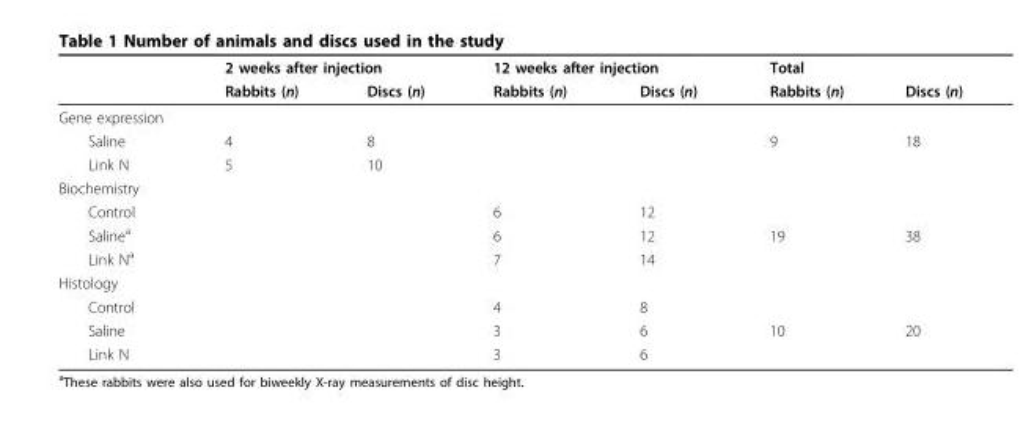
<table><thead><tr><td rowspan="2"></td><td colspan="2">2 weeks after injection</td><td colspan="2">12 weeks after injection</td><td colspan="2">Total</td></tr><tr><td>Rabbits (n)</td><td>Discs (n)</td><td>Rabbits (n)</td><td>Discs (n)</td><td>Rabbits (n)</td><td>Discs (n)</td></tr></thead><tbody><tr><td colspan="7">Gene expression</td></tr><tr><td>Saline</td><td>4</td><td>8</td><td></td><td></td><td>9</td><td>18</td></tr><tr><td>Link N</td><td>5</td><td>10</td><td></td><td></td><td></td><td></td></tr><tr><td colspan="7">Biochemistry</td></tr><tr><td>Control</td><td></td><td></td><td>6</td><td>12</td><td></td><td></td></tr><tr><td>Saline<sup>a</sup></td><td></td><td></td><td>6</td><td>12</td><td>19</td><td>38</td></tr><tr><td>Link N<sup>a</sup></td><td></td><td></td><td>7</td><td>14</td><td></td><td></td></tr><tr><td colspan="7">Histology</td></tr><tr><td>Control</td><td></td><td></td><td>4</td><td>8</td><td></td><td></td></tr><tr><td>Saline</td><td></td><td></td><td>3</td><td>6</td><td>10</td><td>20</td></tr><tr><td>Link N</td><td></td><td></td><td>3</td><td>6</td><td></td><td></td></tr></tbody></table>